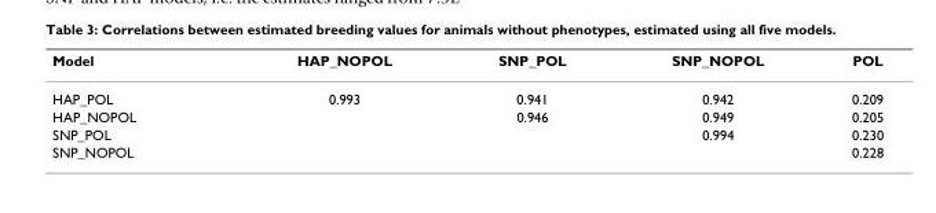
<table><thead><tr><td>Model</td><td>HAP_NOPOL</td><td>SNP_POL</td><td>SNP_NOPOL</td><td>POL</td></tr></thead><tbody><tr><td>HAP_POL</td><td>0.993</td><td>0.941</td><td>0.942</td><td>0.209</td></tr><tr><td>HAP_NOPOL</td><td></td><td>0.946</td><td>0.949</td><td>0.205</td></tr><tr><td>SNP_POL</td><td></td><td></td><td>0.994</td><td>0.230</td></tr><tr><td>SNP_NOPOL</td><td></td><td></td><td></td><td>0.228</td></tr></tbody></table>